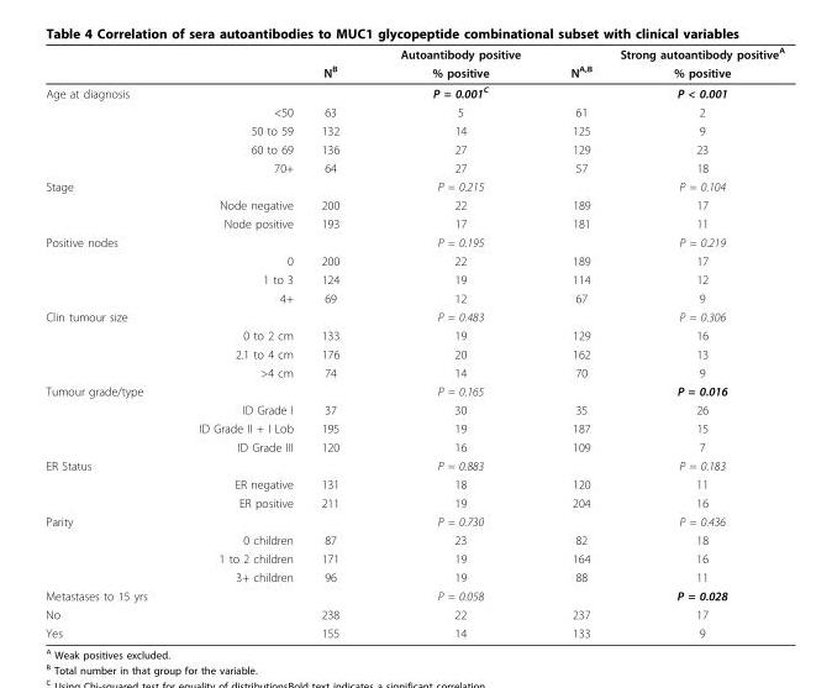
<table><thead><tr><td rowspan="2"></td><td rowspan="2">N<sup>B</sup></td><td rowspan="2">Autoantibody positive % positive</td><td rowspan="2">N<sup>A,B</sup></td><td rowspan="2">Strong autoantibody positive<sup>A</sup> % positive</td></tr><tr></tr></thead><tbody><tr><td>Age at diagnosis</td><td></td><td>P = 0.001<sup>C</sup></td><td></td><td>P &lt; 0.001</td></tr><tr><td>&lt;50</td><td>63</td><td>5</td><td>61</td><td>2</td></tr><tr><td>50 to 59</td><td>132</td><td>14</td><td>125</td><td>9</td></tr><tr><td>60 to 69</td><td>136</td><td>27</td><td>129</td><td>23</td></tr><tr><td>70+</td><td>64</td><td>27</td><td>57</td><td>18</td></tr><tr><td>Stage</td><td></td><td>P = 0.215</td><td></td><td>P = 0.104</td></tr><tr><td>Node negative</td><td>200</td><td>22</td><td>189</td><td>17</td></tr><tr><td>Node positive</td><td>193</td><td>17</td><td>181</td><td>11</td></tr><tr><td>Positive nodes</td><td></td><td>P = 0.195</td><td></td><td>P = 0.219</td></tr><tr><td>0</td><td>200</td><td>22</td><td>189</td><td>17</td></tr><tr><td>1 to 3</td><td>124</td><td>19</td><td>114</td><td>12</td></tr><tr><td>4+</td><td>69</td><td>12</td><td>67</td><td>9</td></tr><tr><td>Clin tumour size</td><td></td><td>P = 0.483</td><td></td><td>P = 0.306</td></tr><tr><td>0 to 2 cm</td><td>133</td><td>19</td><td>129</td><td>16</td></tr><tr><td>2.1 to 4 cm</td><td>176</td><td>20</td><td>162</td><td>13</td></tr><tr><td>&gt;4 cm</td><td>74</td><td>14</td><td>70</td><td>9</td></tr><tr><td>Tumour grade/type</td><td></td><td>P = 0.165</td><td></td><td>P = 0.016</td></tr><tr><td>ID Grade I</td><td>37</td><td>30</td><td>35</td><td>26</td></tr><tr><td>ID Grade II + I Lob</td><td>195</td><td>19</td><td>187</td><td>15</td></tr><tr><td>ID Grade III</td><td>120</td><td>16</td><td>109</td><td>7</td></tr><tr><td>ER Status</td><td></td><td>P = 0.883</td><td></td><td>P = 0.183</td></tr><tr><td>ER negative</td><td>131</td><td>18</td><td>120</td><td>11</td></tr><tr><td>ER positive</td><td>211</td><td>19</td><td>204</td><td>16</td></tr><tr><td>Parity</td><td></td><td>P = 0.730</td><td></td><td>P = 0.436</td></tr><tr><td>0 children</td><td>87</td><td>23</td><td>82</td><td>18</td></tr><tr><td>1 to 2 children</td><td>171</td><td>19</td><td>164</td><td>16</td></tr><tr><td>3+ children</td><td>96</td><td>19</td><td>88</td><td>11</td></tr><tr><td>Metastases to 15 yrs</td><td></td><td>P = 0.058</td><td></td><td>P = 0.028</td></tr><tr><td>No</td><td>238</td><td>22</td><td>237</td><td>17</td></tr><tr><td>Yes</td><td>155</td><td>14</td><td>133</td><td>9</td></tr></tbody></table>